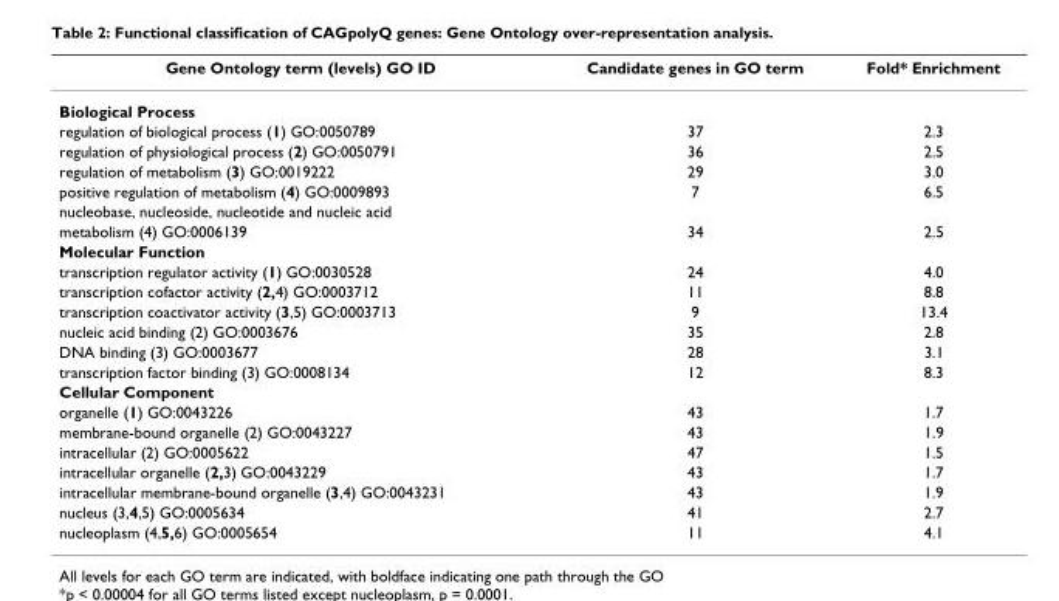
<table><thead><tr><td>Gene Ontology term (levels) GO ID</td><td>Candidate genes in GO term</td><td>Fold* Enrichment</td></tr></thead><tbody><tr><td colspan="3">Biological Process</td></tr><tr><td>regulation of biological process (1) GO:0050789</td><td>37</td><td>2.3</td></tr><tr><td>regulation of physiological process (2) GO:0050791</td><td>36</td><td>2.5</td></tr><tr><td>regulation of metabolism (3) GO:0019222</td><td>29</td><td>3.0</td></tr><tr><td>positive regulation of metabolism (4) GO:0009893</td><td>7</td><td>6.5</td></tr><tr><td colspan="3">nucleobase, nucleoside, nucleotide and nucleic acid</td></tr><tr><td>metabolism (4) GO:0006139</td><td>34</td><td>2.5</td></tr><tr><td colspan="3">Molecular Function</td></tr><tr><td>transcription regulator activity (1) GO:0030528</td><td>24</td><td>4.0</td></tr><tr><td>transcription cofactor activity (2,4) GO:0003712</td><td>11</td><td>8.8</td></tr><tr><td>transcription coactivator activity (3,5) GO:0003713</td><td>9</td><td>13.4</td></tr><tr><td>nucleic acid binding (2) GO:0003676</td><td>35</td><td>2.8</td></tr><tr><td>DNA binding (3) GO:0003677</td><td>28</td><td>3.1</td></tr><tr><td>transcription factor binding (3) GO:0008134</td><td>12</td><td>8.3</td></tr><tr><td colspan="3">Cellular Component</td></tr><tr><td>organelle (1) GO:0043226</td><td>43</td><td>1.7</td></tr><tr><td>membrane-bound organelle (2) GO:0043227</td><td>43</td><td>1.9</td></tr><tr><td>intracellular (2) GO:0005622</td><td>47</td><td>1.5</td></tr><tr><td>intracellular organelle (2,3) GO:0043229</td><td>43</td><td>1.7</td></tr><tr><td>intracellular membrane-bound organelle (3,4) GO:0043231</td><td>43</td><td>1.9</td></tr><tr><td>nucleus (3,4,5) GO:0005634</td><td>41</td><td>2.7</td></tr><tr><td>nucleoplasm (4,5,6) GO:0005654</td><td>11</td><td>4.1</td></tr></tbody></table>